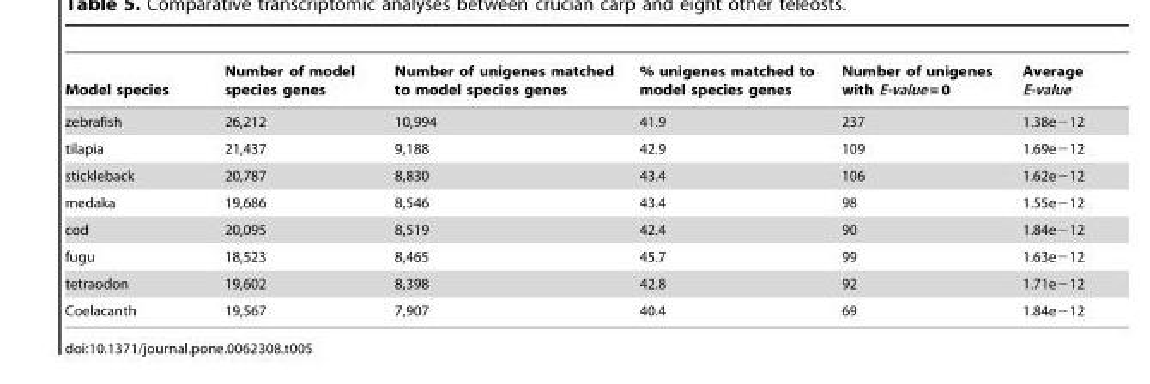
<table><thead><tr><td>Model species</td><td>Number of model species genes</td><td>Number of unigenes matched to model species genes</td><td>% unigenes matched to model species genes</td><td>Number of unigenes with E-value = 0</td><td>Average E-value</td></tr></thead><tbody><tr><td>zebrafish</td><td>26,212</td><td>10,994</td><td>41.9</td><td>237</td><td>1.38e−12</td></tr><tr><td>tilapia</td><td>21,437</td><td>9,188</td><td>42.9</td><td>109</td><td>1.69e−12</td></tr><tr><td>stickleback</td><td>20,787</td><td>8,830</td><td>43.4</td><td>106</td><td>1.62e−12</td></tr><tr><td>medaka</td><td>19,686</td><td>8,546</td><td>43.4</td><td>98</td><td>1.55e−12</td></tr><tr><td>cod</td><td>20,095</td><td>8,519</td><td>42.4</td><td>90</td><td>1.84e−12</td></tr><tr><td>fugu</td><td>18,523</td><td>8,465</td><td>45.7</td><td>99</td><td>1.63e−12</td></tr><tr><td>tetraodon</td><td>19,602</td><td>8,398</td><td>42.8</td><td>92</td><td>1.71e−12</td></tr><tr><td>Coelacanth</td><td>19,567</td><td>7,907</td><td>40.4</td><td>69</td><td>1.84e−12</td></tr></tbody></table>